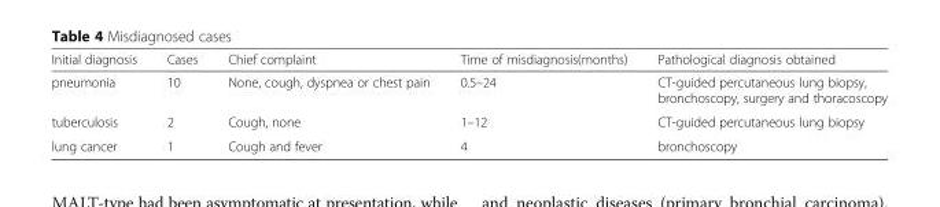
<table><thead><tr><td>Initial diagnosis</td><td>Cases</td><td>Chief complaint</td><td>Time of misdiagnosis(months)</td><td>Pathological diagnosis obtained</td></tr></thead><tbody><tr><td>pneumonia</td><td>10</td><td>None, cough, dyspnea or chest pain</td><td>0.5–24</td><td>CT-guided percutaneous lung biopsy, bronchoscopy, surgery and thoracoscopy</td></tr><tr><td>tuberculosis</td><td>2</td><td>Cough, none</td><td>1–12</td><td>CT-guided percutaneous lung biopsy</td></tr><tr><td>lung cancer</td><td>1</td><td>Cough and fever</td><td>4</td><td>bronchoscopy</td></tr></tbody></table>